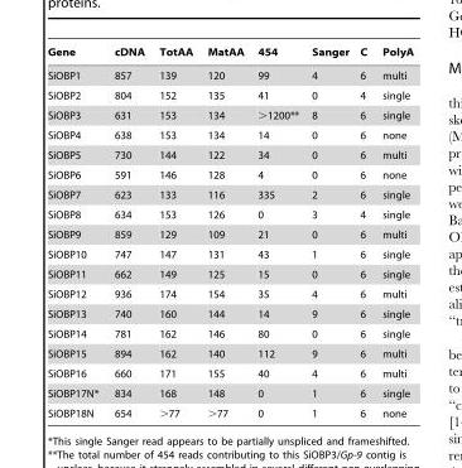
<table><thead><tr><td>Gene</td><td>cDNA</td><td>TotAA</td><td>MatAA</td><td>454</td><td>Sanger</td><td>C</td><td>PolyA</td></tr></thead><tbody><tr><td>SiOBP1</td><td>857</td><td>139</td><td>120</td><td>99</td><td>4</td><td>6</td><td>multi</td></tr><tr><td>SiOBP2</td><td>804</td><td>152</td><td>135</td><td>41</td><td>0</td><td>4</td><td>single</td></tr><tr><td>SiOBP3</td><td>631</td><td>153</td><td>134</td><td>&gt;1200**</td><td>8</td><td>6</td><td>single</td></tr><tr><td>SiOBP4</td><td>638</td><td>153</td><td>134</td><td>14</td><td>0</td><td>6</td><td>none</td></tr><tr><td>SiOBP5</td><td>730</td><td>144</td><td>122</td><td>34</td><td>0</td><td>6</td><td>multi</td></tr><tr><td>SiOBP6</td><td>591</td><td>146</td><td>128</td><td>4</td><td>0</td><td>6</td><td>none</td></tr><tr><td>SiOBP7</td><td>623</td><td>133</td><td>116</td><td>335</td><td>2</td><td>6</td><td>single</td></tr><tr><td>SiOBP8</td><td>634</td><td>153</td><td>126</td><td>0</td><td>3</td><td>4</td><td>single</td></tr><tr><td>SiOBP9</td><td>859</td><td>129</td><td>109</td><td>21</td><td>0</td><td>6</td><td>multi</td></tr><tr><td>SiOBP10</td><td>747</td><td>147</td><td>131</td><td>43</td><td>1</td><td>6</td><td>single</td></tr><tr><td>SiOBP11</td><td>662</td><td>149</td><td>125</td><td>15</td><td>0</td><td>6</td><td>single</td></tr><tr><td>SiOBP12</td><td>936</td><td>174</td><td>154</td><td>35</td><td>4</td><td>6</td><td>multi</td></tr><tr><td>SiOBP13</td><td>740</td><td>160</td><td>144</td><td>14</td><td>9</td><td>6</td><td>single</td></tr><tr><td>SiOBP14</td><td>781</td><td>162</td><td>146</td><td>80</td><td>0</td><td>6</td><td>single</td></tr><tr><td>SiOBP15</td><td>894</td><td>162</td><td>140</td><td>112</td><td>9</td><td>6</td><td>multi</td></tr><tr><td>SiOBP16</td><td>660</td><td>171</td><td>155</td><td>40</td><td>4</td><td>6</td><td>multi</td></tr><tr><td>SiOBP17N*</td><td>834</td><td>168</td><td>148</td><td>0</td><td>1</td><td>6</td><td>single</td></tr><tr><td>SiOBP18N</td><td>654</td><td>&gt;77</td><td>&gt;77</td><td>0</td><td>1</td><td>6</td><td>none</td></tr></tbody></table>